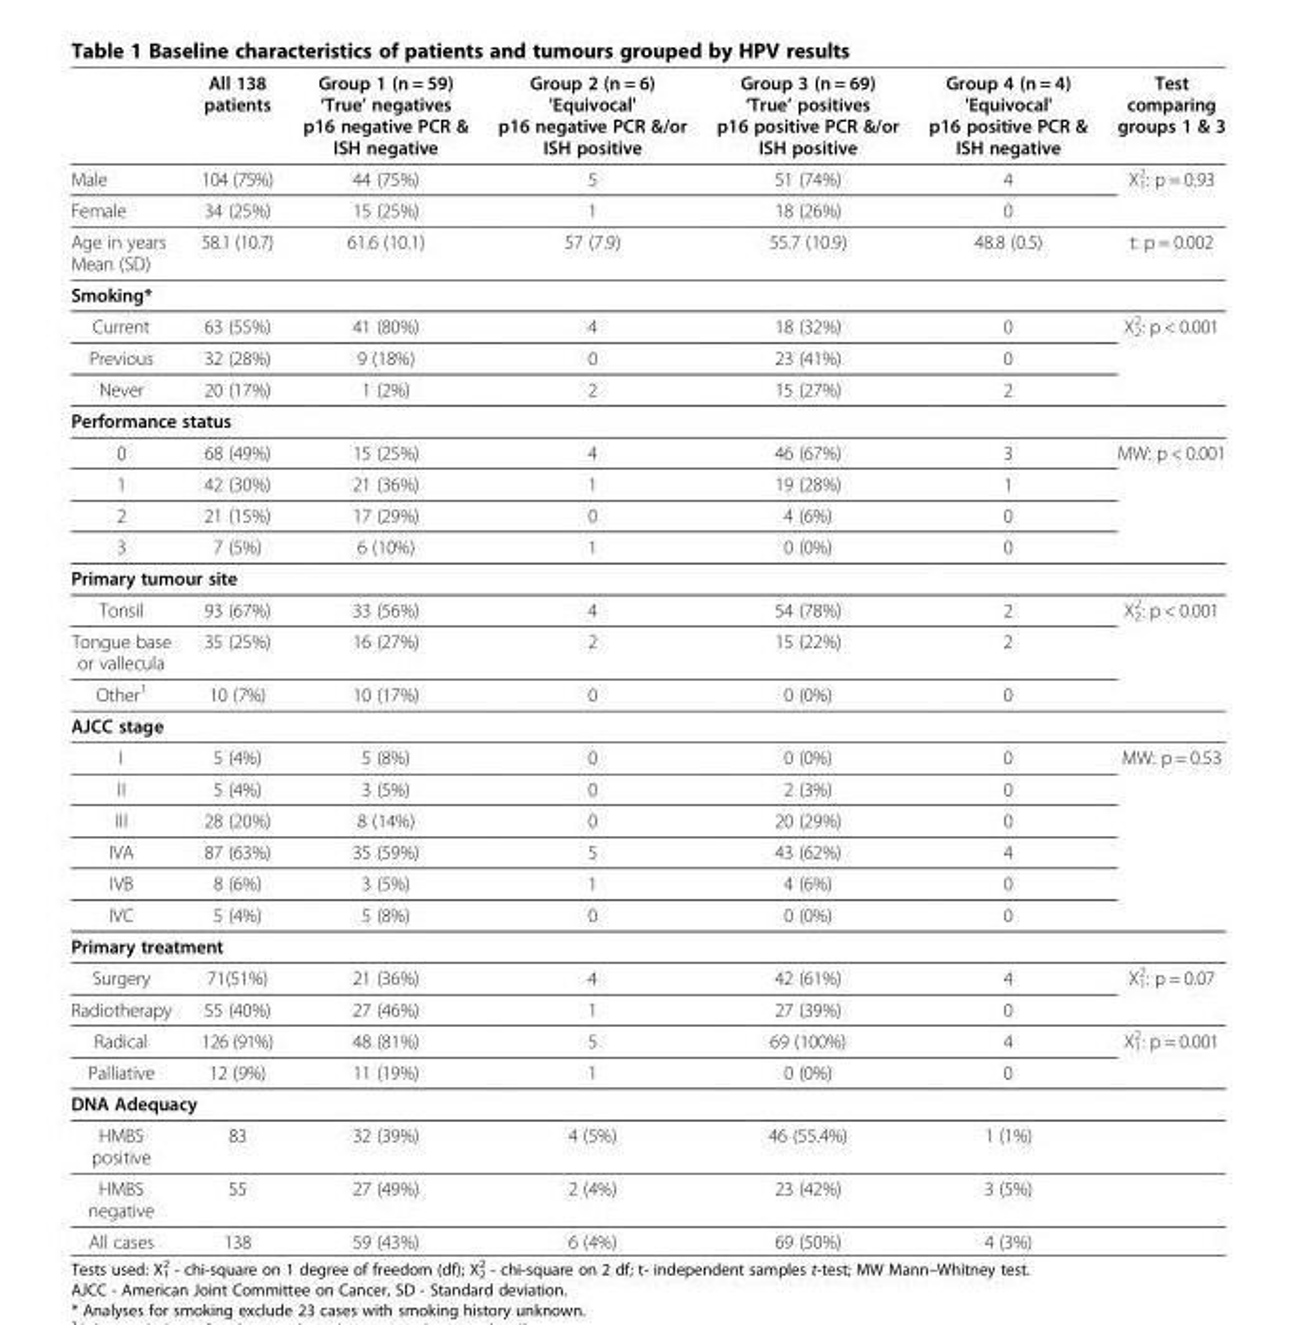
<table><thead><tr><td></td><td>All 138 patients</td><td>Group 1 (n = 59) ‘True’ negatives p16 negative PCR &amp; ISH negative</td><td>Group 2 (n = 6) &#x27;Equivocal&#x27; p16 negative PCR &amp;/or ISH positive</td><td>Group 3 (n = 69) ‘True’ positives p16 positive PCR &amp;/or ISH positive</td><td>Group 4 (n = 4) &#x27;Equivocal&#x27; p16 positive PCR &amp; ISH negative</td><td>Test comparing groups 1 &amp; 3</td></tr></thead><tbody><tr><td>Male</td><td>104 (75%)</td><td>44 (75%)</td><td>5</td><td>51 (74%)</td><td>4</td><td>X<sup>2</sup> <sub>1</sub>: p = 0.93</td></tr><tr><td>Female</td><td>34 (25%)</td><td>15 (25%)</td><td>1</td><td>18 (26%)</td><td>0</td><td></td></tr><tr><td>Age in years Mean (SD)</td><td>58.1 (10.7)</td><td>61.6 (10.1)</td><td>57 (7.9)</td><td>55.7 (10.9)</td><td>48.8 (0.5)</td><td>t: p = 0.002</td></tr><tr><td colspan="7">Smoking*</td></tr><tr><td>Current</td><td>63 (55%)</td><td>41 (80%)</td><td>4</td><td>18 (32%)</td><td>0</td><td>X<sup>2</sup> <sub>2</sub>: p &lt; 0.001</td></tr><tr><td>Previous</td><td>32 (28%)</td><td>9 (18%)</td><td>0</td><td>23 (41%)</td><td>0</td><td></td></tr><tr><td>Never</td><td>20 (17%)</td><td>1 (2%)</td><td>2</td><td>15 (27%)</td><td>2</td><td></td></tr><tr><td colspan="7">Performance status</td></tr><tr><td>0</td><td>68 (49%)</td><td>15 (25%)</td><td>4</td><td>46 (67%)</td><td>3</td><td>MW: p &lt; 0.001</td></tr><tr><td>1</td><td>42 (30%)</td><td>21 (36%)</td><td>1</td><td>19 (28%)</td><td>1</td><td></td></tr><tr><td>2</td><td>21 (15%)</td><td>17 (29%)</td><td>0</td><td>4 (6%)</td><td>0</td><td></td></tr><tr><td>3</td><td>7 (5%)</td><td>6 (10%)</td><td>1</td><td>0 (0%)</td><td>0</td><td></td></tr><tr><td colspan="7">Primary tumour site</td></tr><tr><td>Tonsil</td><td>93 (67%)</td><td>33 (56%)</td><td>4</td><td>54 (78%)</td><td>2</td><td>X<sup>2</sup> <sub>2</sub>: p &lt; 0.001</td></tr><tr><td>Tongue base or vallecula</td><td>35 (25%)</td><td>16 (27%)</td><td>2</td><td>15 (22%)</td><td>2</td><td></td></tr><tr><td>Other<sup>1</sup></td><td>10 (7%)</td><td>10 (17%)</td><td>0</td><td>0 (0%)</td><td>0</td><td></td></tr><tr><td colspan="7">AJCC stage</td></tr><tr><td>I</td><td>5 (4%)</td><td>5 (8%)</td><td>0</td><td>0 (0%)</td><td>0</td><td>MW: p = 0.53</td></tr><tr><td>II</td><td>5 (4%)</td><td>3 (5%)</td><td>0</td><td>2 (3%)</td><td>0</td><td></td></tr><tr><td>III</td><td>28 (20%)</td><td>8 (14%)</td><td>0</td><td>20 (29%)</td><td>0</td><td></td></tr><tr><td>IVA</td><td>87 (63%)</td><td>35 (59%)</td><td>5</td><td>43 (62%)</td><td>4</td><td></td></tr><tr><td>IVB</td><td>8 (6%)</td><td>3 (5%)</td><td>1</td><td>4 (6%)</td><td>0</td><td></td></tr><tr><td>IVC</td><td>5 (4%)</td><td>5 (8%)</td><td>0</td><td>0 (0%)</td><td>0</td><td></td></tr><tr><td colspan="7">Primary treatment</td></tr><tr><td>Surgery</td><td>71(51%)</td><td>21 (36%)</td><td>4</td><td>42 (61%)</td><td>4</td><td>X<sup>2</sup> <sub>1</sub>: p = 0.07</td></tr><tr><td>Radiotherapy</td><td>55 (40%)</td><td>27 (46%)</td><td>1</td><td>27 (39%)</td><td>0</td><td></td></tr><tr><td>Radical</td><td>126 (91%)</td><td>48 (81%)</td><td>5</td><td>69 (100%)</td><td>4</td><td>X<sup>2</sup> <sub>1</sub>: p = 0.001</td></tr><tr><td>Palliative</td><td>12 (9%)</td><td>11 (19%)</td><td>1</td><td>0 (0%)</td><td>0</td><td></td></tr><tr><td colspan="7">DNA Adequacy</td></tr><tr><td>HMBS positive</td><td>83</td><td>32 (39%)</td><td>4 (5%)</td><td>46 (55.4%)</td><td>1 (1%)</td><td></td></tr><tr><td>HMBS negative</td><td>55</td><td>27 (49%)</td><td>2 (4%)</td><td>23 (42%)</td><td>3 (5%)</td><td></td></tr><tr><td>All cases</td><td>138</td><td>59 (43%)</td><td>6 (4%)</td><td>69 (50%)</td><td>4 (3%)</td><td></td></tr></tbody></table>